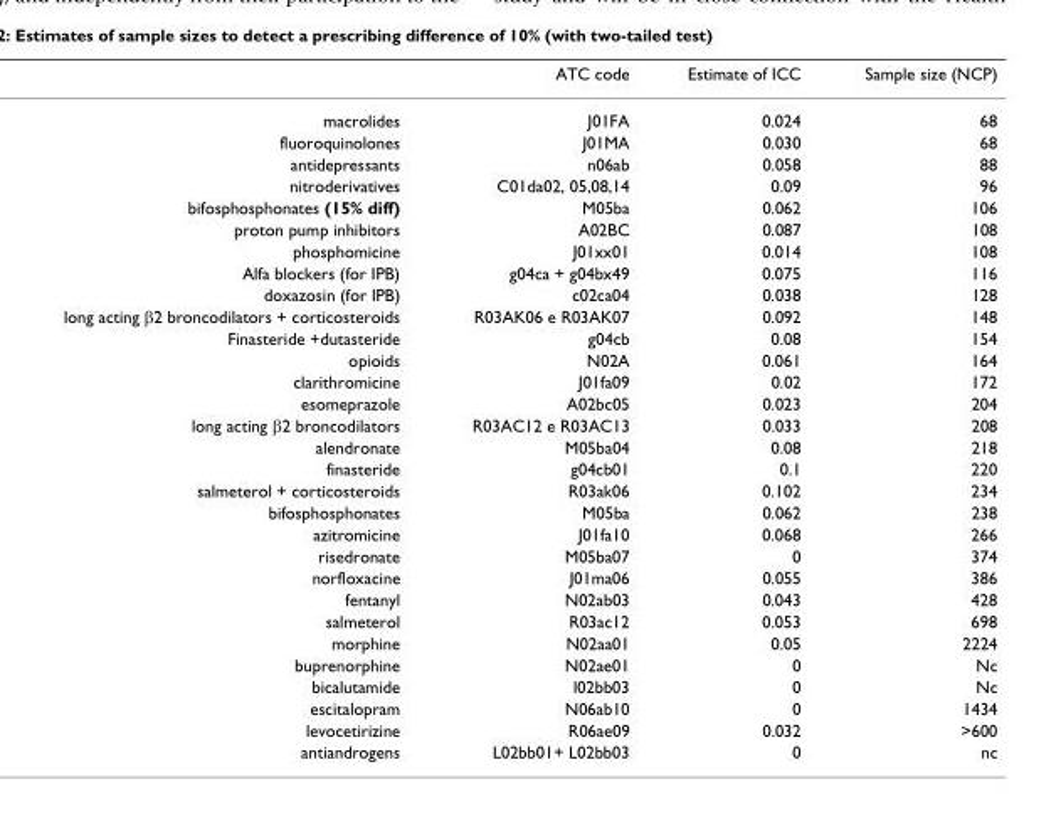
<table><thead><tr><td></td><td>ATC code</td><td>Estimate of ICC</td><td>Sample size (NCP)</td></tr></thead><tbody><tr><td>macrolides</td><td>J01FA</td><td>0.024</td><td>68</td></tr><tr><td>fluoroquinolones</td><td>J01MA</td><td>0.030</td><td>68</td></tr><tr><td>antidepressants</td><td>n06ab</td><td>0.058</td><td>88</td></tr><tr><td>nitroderivatives</td><td>C01da02, 05,08,14</td><td>0.09</td><td>96</td></tr><tr><td>bifosphosphonates (15% diff)</td><td>M05ba</td><td>0.062</td><td>106</td></tr><tr><td>proton pump inhibitors</td><td>A02BC</td><td>0.087</td><td>108</td></tr><tr><td>phosphomicine</td><td>J01xx01</td><td>0.014</td><td>108</td></tr><tr><td>Alfa blockers (for IPB)</td><td>g04ca + g04bx49</td><td>0.075</td><td>116</td></tr><tr><td>doxazosin (for IPB)</td><td>c02ca04</td><td>0.038</td><td>128</td></tr><tr><td>long acting β2 broncodilators + corticosteroids</td><td>R03AK06 e R03AK07</td><td>0.092</td><td>148</td></tr><tr><td>Finasteride +dutasteride</td><td>g04cb</td><td>0.08</td><td>154</td></tr><tr><td>opioids</td><td>N02A</td><td>0.061</td><td>164</td></tr><tr><td>clarithromicine</td><td>J01fa09</td><td>0.02</td><td>172</td></tr><tr><td>esomeprazole</td><td>A02bc05</td><td>0.023</td><td>204</td></tr><tr><td>long acting β2 broncodilators</td><td>R03AC12 e R03AC13</td><td>0.033</td><td>208</td></tr><tr><td>alendronate</td><td>M05ba04</td><td>0.08</td><td>218</td></tr><tr><td>finasteride</td><td>g04cb01</td><td>0.1</td><td>220</td></tr><tr><td>salmeterol + corticosteroids</td><td>R03ak06</td><td>0.102</td><td>234</td></tr><tr><td>bifosphosphonates</td><td>M05ba</td><td>0.062</td><td>238</td></tr><tr><td>azitromicine</td><td>J01fa10</td><td>0.068</td><td>266</td></tr><tr><td>risedronate</td><td>M05ba07</td><td>0</td><td>374</td></tr><tr><td>norfloxacine</td><td>J01ma06</td><td>0.055</td><td>386</td></tr><tr><td>fentanyl</td><td>N02ab03</td><td>0.043</td><td>428</td></tr><tr><td>salmeterol</td><td>R03ac12</td><td>0.053</td><td>698</td></tr><tr><td>morphine</td><td>N02aa01</td><td>0.05</td><td>2224</td></tr><tr><td>buprenorphine</td><td>N02ae01</td><td>0</td><td>Nc</td></tr><tr><td>bicalutamide</td><td>l02bb03</td><td>0</td><td>Nc</td></tr><tr><td>escitalopram</td><td>N06ab10</td><td>0</td><td>1434</td></tr><tr><td>levocetirizine</td><td>R06ae09</td><td>0.032</td><td>&gt;600</td></tr><tr><td>antiandrogens</td><td>L02bb01+ L02bb03</td><td>0</td><td>nc</td></tr></tbody></table>